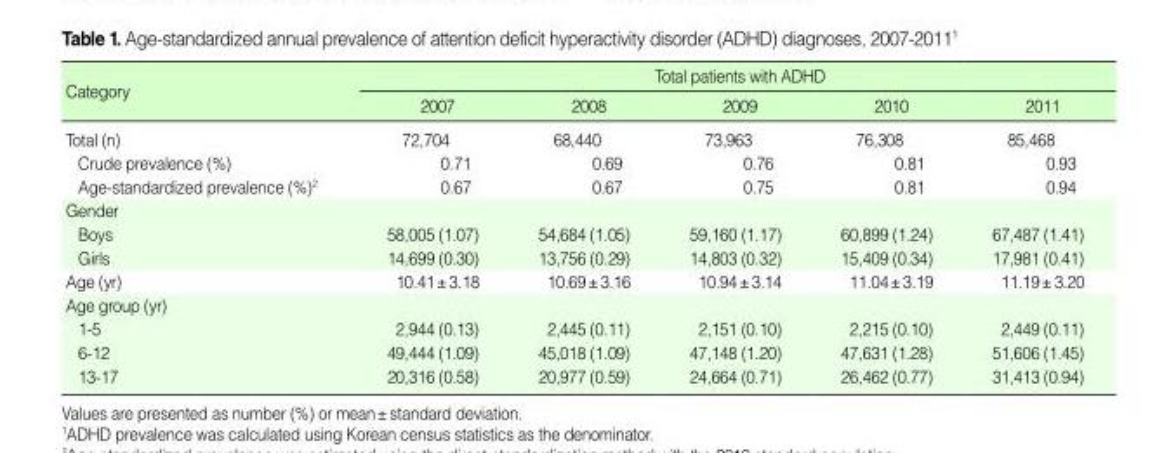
<table><thead><tr><td rowspan="2">Category</td><td colspan="5">Total patients with ADHD</td></tr><tr><td>2007</td><td>2008</td><td>2009</td><td>2010</td><td>2011</td></tr></thead><tbody><tr><td>Total (n)</td><td>72,704</td><td>68,440</td><td>73,963</td><td>76,308</td><td>85,468</td></tr><tr><td>Crude prevalence (%)</td><td>0.71</td><td>0.69</td><td>0.76</td><td>0.81</td><td>0.93</td></tr><tr><td>Age-standardized prevalence (%)<sup>2</sup></td><td>0.67</td><td>0.67</td><td>0.75</td><td>0.81</td><td>0.94</td></tr><tr><td colspan="6">Gender</td></tr><tr><td>Boys</td><td>58,005 (1.07)</td><td>54,684 (1.05)</td><td>59,160 (1.17)</td><td>60,899 (1.24)</td><td>67,487 (1.41)</td></tr><tr><td>Girls</td><td>14,699 (0.30)</td><td>13,756 (0.29)</td><td>14,803 (0.32)</td><td>15,409 (0.34)</td><td>17,981 (0.41)</td></tr><tr><td>Age (yr)</td><td>10.41±3.18</td><td>10.69±3.16</td><td>10.94±3.14</td><td>11.04±3.19</td><td>11.19±3.20</td></tr><tr><td colspan="6">Age group (yr)</td></tr><tr><td>1-5</td><td>2,944 (0.13)</td><td>2,445 (0.11)</td><td>2,151 (0.10)</td><td>2,215 (0.10)</td><td>2,449 (0.11)</td></tr><tr><td>6-12</td><td>49,444 (1.09)</td><td>45,018 (1.09)</td><td>47,148 (1.20)</td><td>47,631 (1.28)</td><td>51,606 (1.45)</td></tr><tr><td>13-17</td><td>20,316 (0.58)</td><td>20,977 (0.59)</td><td>24,664 (0.71)</td><td>26,462 (0.77)</td><td>31,413 (0.94)</td></tr></tbody></table>